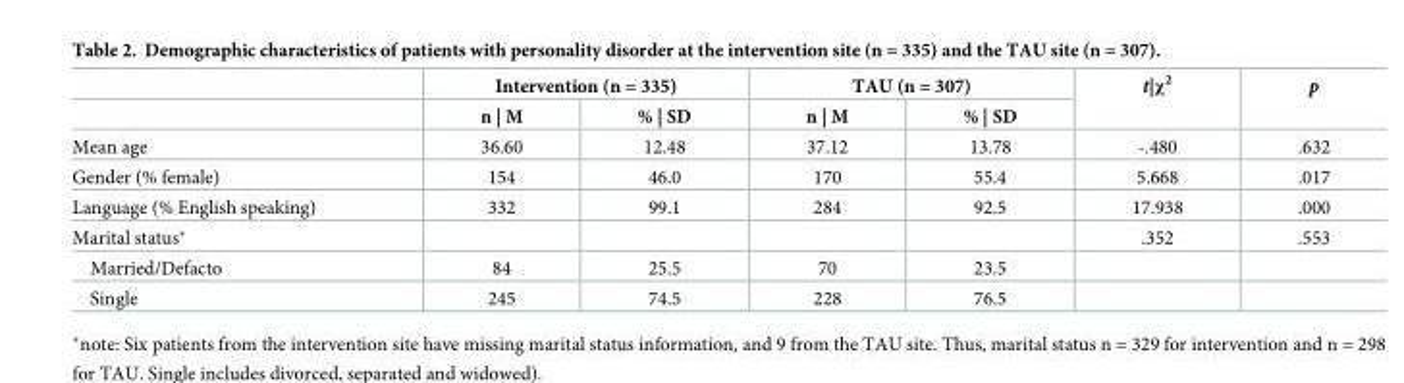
<table><thead><tr><td rowspan="2"></td><td colspan="2">Intervention (n = 335)</td><td colspan="2">TAU (n = 307)</td><td rowspan="2">t|χ<sup>2</sup></td><td rowspan="2">p</td></tr><tr><td>n | M</td><td>% | SD</td><td>n | M</td><td>% | SD</td></tr></thead><tbody><tr><td>Mean age</td><td>36.60</td><td>12.48</td><td>37.12</td><td>13.78</td><td>-.480</td><td>.632</td></tr><tr><td>Gender (% female)</td><td>154</td><td>46.0</td><td>170</td><td>55.4</td><td>5.668</td><td>.017</td></tr><tr><td>Language (% English speaking)</td><td>332</td><td>99.1</td><td>284</td><td>92.5</td><td>17.938</td><td>.000</td></tr><tr><td>Marital status*</td><td></td><td></td><td></td><td></td><td>.352</td><td>.553</td></tr><tr><td>Married/Defacto</td><td>84</td><td>25.5</td><td>70</td><td>23.5</td><td></td><td></td></tr><tr><td>Single</td><td>245</td><td>74.5</td><td>228</td><td>76.5</td><td></td><td></td></tr></tbody></table>